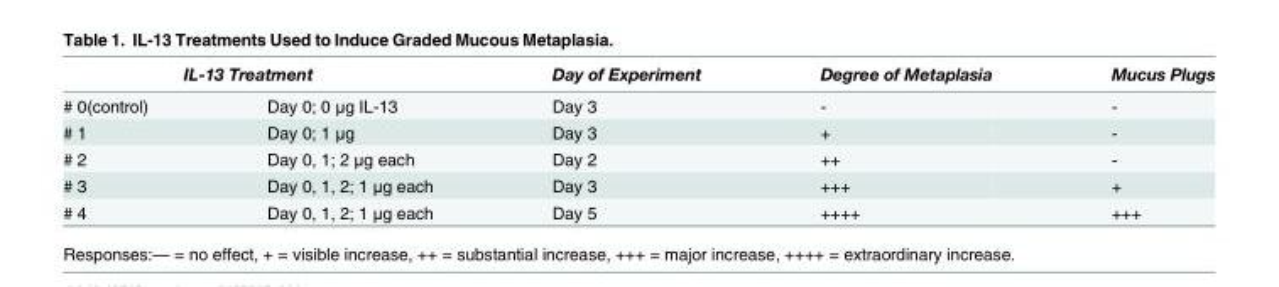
<table><thead><tr><td colspan="2">IL-13 Treatment</td><td rowspan="2">Day of Experiment Day 3</td><td rowspan="2">Degree of Metaplasia -</td><td rowspan="2">Mucus Plugs -</td></tr><tr><td># 0(control)</td><td>Day 0; 0 μg IL-13</td></tr></thead><tbody><tr><td># 1</td><td>Day 0; 1 μg</td><td>Day 3</td><td>+</td><td>-</td></tr><tr><td># 2</td><td>Day 0, 1; 2 μg each</td><td>Day 2</td><td>++</td><td>-</td></tr><tr><td># 3</td><td>Day 0, 1, 2; 1 μg each</td><td>Day 3</td><td>+++</td><td>+</td></tr><tr><td># 4</td><td>Day 0, 1, 2; 1 μg each</td><td>Day 5</td><td>++++</td><td>+++</td></tr></tbody></table>